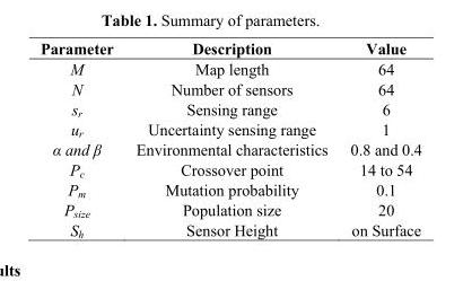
<table><thead><tr><td>Parameter</td><td>Description</td><td>Value</td></tr></thead><tbody><tr><td>M</td><td>Map length</td><td>64</td></tr><tr><td>N</td><td>Number of sensors</td><td>64</td></tr><tr><td>s<sub>r</sub></td><td>Sensing range</td><td>6</td></tr><tr><td>u<sub>r</sub></td><td>Uncertainty sensing range</td><td>1</td></tr><tr><td>α and β</td><td>Environmental characteristics</td><td>0.8 and 0.4</td></tr><tr><td>P<sub>c</sub></td><td>Crossover point</td><td>14 to 54</td></tr><tr><td>P<sub>m</sub></td><td>Mutation probability</td><td>0.1</td></tr><tr><td>P<sub>size</sub></td><td>Population size</td><td>20</td></tr><tr><td>S<sub>h</sub></td><td>Sensor Height</td><td>on Surface</td></tr></tbody></table>